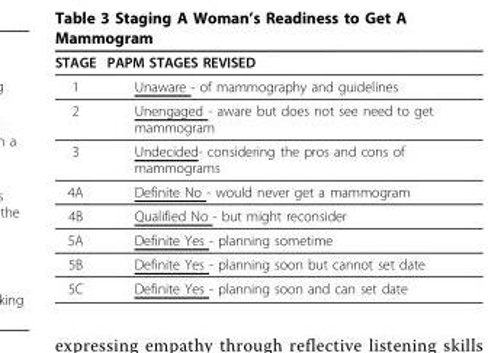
<table><thead><tr><td>STAGE</td><td>PAPM STAGES REVISED</td></tr></thead><tbody><tr><td>1</td><td>Unaware - of mammography and guidelines</td></tr><tr><td>2</td><td>Unengaged - aware but does not see need to get mammogram</td></tr><tr><td>3</td><td>Undecided- considering the pros and cons of mammograms</td></tr><tr><td>4A</td><td>Definite No - would never get a mammogram</td></tr><tr><td>4B</td><td>Qualified No - but might reconsider</td></tr><tr><td>5A</td><td>Definite Yes - planning sometime</td></tr><tr><td>5B</td><td>Definite Yes - planning soon but cannot set date</td></tr><tr><td>5C</td><td>Definite Yes - planning soon and can set date</td></tr></tbody></table>